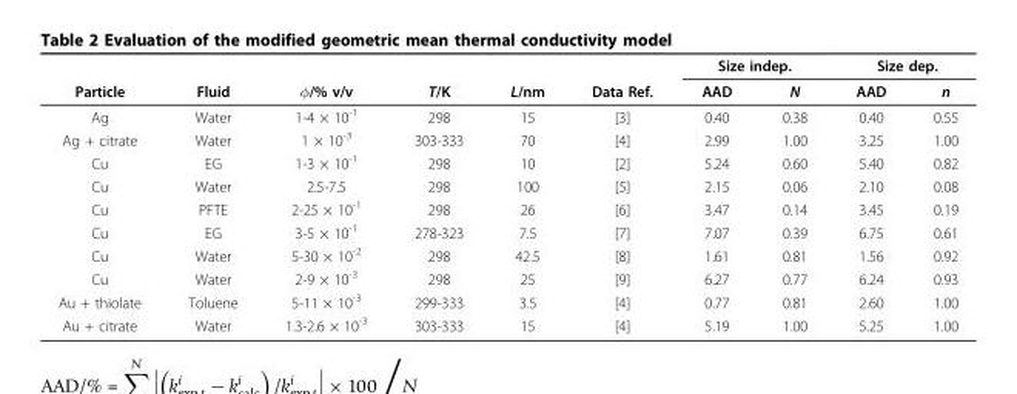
<table><thead><tr><td rowspan="2">Particle</td><td rowspan="2">Fluid</td><td rowspan="2">φ/% v/v</td><td rowspan="2">T/K</td><td rowspan="2">L/nm</td><td rowspan="2">Data Ref.</td><td colspan="2">Size indep.</td><td colspan="2">Size dep.</td></tr><tr><td>AAD</td><td>N</td><td>AAD</td><td>n</td></tr></thead><tbody><tr><td>Ag</td><td>Water</td><td>1-4 × 10<sup>-1</sup></td><td>298</td><td>15</td><td>[3]</td><td>0.40</td><td>0.38</td><td>0.40</td><td>0.55</td></tr><tr><td>Ag + citrate</td><td>Water</td><td>1 × 10<sup>-3</sup></td><td>303-333</td><td>70</td><td>[4]</td><td>2.99</td><td>1.00</td><td>3.25</td><td>1.00</td></tr><tr><td>Cu</td><td>EG</td><td>1-3 × 10<sup>-1</sup></td><td>298</td><td>10</td><td>[2]</td><td>5.24</td><td>0.60</td><td>5.40</td><td>0.82</td></tr><tr><td>Cu</td><td>Water</td><td>2.5-7.5</td><td>298</td><td>100</td><td>[5]</td><td>2.15</td><td>0.06</td><td>2.10</td><td>0.08</td></tr><tr><td>Cu</td><td>PFTE</td><td>2-25 × 10<sup>-1</sup></td><td>298</td><td>26</td><td>[6]</td><td>3.47</td><td>0.14</td><td>3.45</td><td>0.19</td></tr><tr><td>Cu</td><td>EG</td><td>3-5 × 10<sup>-1</sup></td><td>278-323</td><td>7.5</td><td>[7]</td><td>7.07</td><td>0.39</td><td>6.75</td><td>0.61</td></tr><tr><td>Cu</td><td>Water</td><td>5-30 × 10<sup>-2</sup></td><td>298</td><td>42.5</td><td>[8]</td><td>1.61</td><td>0.81</td><td>1.56</td><td>0.92</td></tr><tr><td>Cu</td><td>Water</td><td>2-9 × 10<sup>-3</sup></td><td>298</td><td>25</td><td>[9]</td><td>6.27</td><td>0.77</td><td>6.24</td><td>0.93</td></tr><tr><td>Au + thiolate</td><td>Toluene</td><td>5-11 × 10<sup>-3</sup></td><td>299-333</td><td>3.5</td><td>[4]</td><td>0.77</td><td>0.81</td><td>2.60</td><td>1.00</td></tr><tr><td>Au + citrate</td><td>Water</td><td>1.3-2.6 × 10<sup>-3</sup></td><td>303-333</td><td>15</td><td>[4]</td><td>5.19</td><td>1.00</td><td>5.25</td><td>1.00</td></tr></tbody></table>